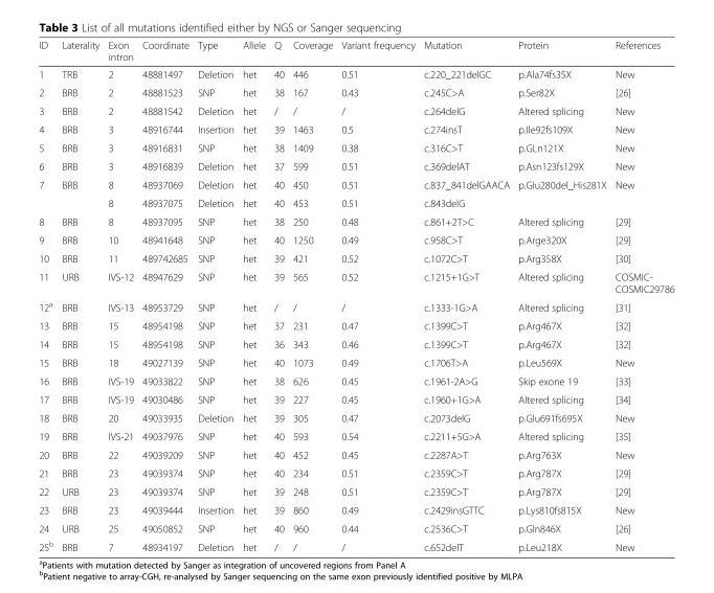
<table><thead><tr><td>ID</td><td>Laterality</td><td>Exon intron</td><td>Coordinate</td><td>Type</td><td>Allele</td><td>Q</td><td>Coverage</td><td>Variant frequency</td><td>Mutation</td><td>Protein</td><td>References</td></tr></thead><tbody><tr><td>1</td><td>TRB</td><td>2</td><td>48881497</td><td>Deletion</td><td>het</td><td>40</td><td>446</td><td>0.51</td><td>c.220_221delGC</td><td>p.Ala74fs35X</td><td>New</td></tr><tr><td>2</td><td>BRB</td><td>2</td><td>48881523</td><td>SNP</td><td>het</td><td>38</td><td>167</td><td>0.43</td><td>c.245C&gt;A</td><td>p.Ser82X</td><td>[26]</td></tr><tr><td>3</td><td>BRB</td><td>2</td><td>48881542</td><td>Deletion</td><td>het</td><td>/</td><td>/</td><td>/</td><td>c.264delG</td><td>Altered splicing</td><td>New</td></tr><tr><td>4</td><td>BRB</td><td>3</td><td>48916744</td><td>Insertion</td><td>het</td><td>39</td><td>1463</td><td>0.5</td><td>c.274insT</td><td>p.Ile92fs109X</td><td>New</td></tr><tr><td>5</td><td>BRB</td><td>3</td><td>48916831</td><td>SNP</td><td>het</td><td>38</td><td>1409</td><td>0.38</td><td>c.316C&gt;T</td><td>p.GLn121X</td><td>New</td></tr><tr><td>6</td><td>BRB</td><td>3</td><td>48916839</td><td>Deletion</td><td>het</td><td>37</td><td>599</td><td>0.51</td><td>c.369delAT</td><td>p.Asn123fs129X</td><td>New</td></tr><tr><td rowspan="2">7</td><td rowspan="2">BRB</td><td>8</td><td>48937069</td><td>Deletion</td><td>het</td><td>40</td><td>450</td><td>0.51</td><td>c.837_841delGAACA</td><td rowspan="2">p.Glu280del_His281X</td><td rowspan="2">New</td></tr><tr><td>8</td><td>48937075</td><td>Deletion</td><td>het</td><td>40</td><td>453</td><td>0.51</td><td>c.843delG</td></tr><tr><td>8</td><td>BRB</td><td>8</td><td>48937095</td><td>SNP</td><td>het</td><td>38</td><td>250</td><td>0.48</td><td>c.861+2T&gt;C</td><td>Altered splicing</td><td>[29]</td></tr><tr><td>9</td><td>BRB</td><td>10</td><td>48941648</td><td>SNP</td><td>het</td><td>40</td><td>1250</td><td>0.49</td><td>c.958C&gt;T</td><td>p.Arge320X</td><td>[29]</td></tr><tr><td>10</td><td>BRB</td><td>11</td><td>489742685</td><td>SNP</td><td>het</td><td>39</td><td>421</td><td>0.52</td><td>c.1072C&gt;T</td><td>p.Arg358X</td><td>[30]</td></tr><tr><td>11</td><td>URB</td><td>IVS-12</td><td>48947629</td><td>SNP</td><td>het</td><td>39</td><td>565</td><td>0.52</td><td>c.1215+1G&gt;T</td><td>Altered splicing</td><td>COSMIC- COSMIC29786</td></tr><tr><td>12<sup>a</sup></td><td>BRB</td><td>IVS-13</td><td>48953729</td><td>SNP</td><td>het</td><td>/</td><td>/</td><td>/</td><td>c.1333-1G&gt;A</td><td>Altered splicing</td><td>[31]</td></tr><tr><td>13</td><td>BRB</td><td>15</td><td>48954198</td><td>SNP</td><td>het</td><td>37</td><td>231</td><td>0.47</td><td>c.1399C&gt;T</td><td>p.Arg467X</td><td>[32]</td></tr><tr><td>14</td><td>BRB</td><td>15</td><td>48954198</td><td>SNP</td><td>het</td><td>36</td><td>343</td><td>0.46</td><td>c.1399C&gt;T</td><td>p.Arg467X</td><td>[32]</td></tr><tr><td>15</td><td>BRB</td><td>18</td><td>49027139</td><td>SNP</td><td>het</td><td>40</td><td>1073</td><td>0.49</td><td>c.1706T&gt;A</td><td>p.Leu569X</td><td>New</td></tr><tr><td>16</td><td>BRB</td><td>IVS-19</td><td>49033822</td><td>SNP</td><td>het</td><td>38</td><td>626</td><td>0.45</td><td>c.1961-2A&gt;G</td><td>Skip exone 19</td><td>[33]</td></tr><tr><td>17</td><td>BRB</td><td>IVS-19</td><td>49030486</td><td>SNP</td><td>het</td><td>39</td><td>227</td><td>0.45</td><td>c.1960+1G&gt;A</td><td>Altered splicing</td><td>[34]</td></tr><tr><td>18</td><td>BRB</td><td>20</td><td>49033935</td><td>Deletion</td><td>het</td><td>39</td><td>305</td><td>0.47</td><td>c.2073delG</td><td>p.Glu691fs695X</td><td>New</td></tr><tr><td>19</td><td>BRB</td><td>IVS-21</td><td>49037976</td><td>SNP</td><td>het</td><td>40</td><td>593</td><td>0.54</td><td>c.2211+5G&gt;A</td><td>Altered splicing</td><td>[35]</td></tr><tr><td>20</td><td>BRB</td><td>22</td><td>49039209</td><td>SNP</td><td>het</td><td>40</td><td>452</td><td>0.45</td><td>c.2287A&gt;T</td><td>p.Arg763X</td><td>New</td></tr><tr><td>21</td><td>BRB</td><td>23</td><td>49039374</td><td>SNP</td><td>het</td><td>40</td><td>234</td><td>0.51</td><td>c.2359C&gt;T</td><td>p.Arg787X</td><td>[29]</td></tr><tr><td>22</td><td>URB</td><td>23</td><td>49039374</td><td>SNP</td><td>het</td><td>39</td><td>248</td><td>0.51</td><td>c.2359C&gt;T</td><td>p.Arg787X</td><td>[29]</td></tr><tr><td>23</td><td>BRB</td><td>23</td><td>49039444</td><td>Insertion</td><td>het</td><td>39</td><td>860</td><td>0.49</td><td>c.2429insGTTC</td><td>p.Lys810fs815X</td><td>New</td></tr><tr><td>24</td><td>URB</td><td>25</td><td>49050852</td><td>SNP</td><td>het</td><td>40</td><td>960</td><td>0.44</td><td>c.2536C&gt;T</td><td>p.Gln846X</td><td>[26]</td></tr><tr><td>25<sup>b</sup></td><td>BRB</td><td>7</td><td>48934197</td><td>Deletion</td><td>het</td><td>/</td><td>/</td><td>/</td><td>c.652delT</td><td>p.Leu218X</td><td>New</td></tr></tbody></table>